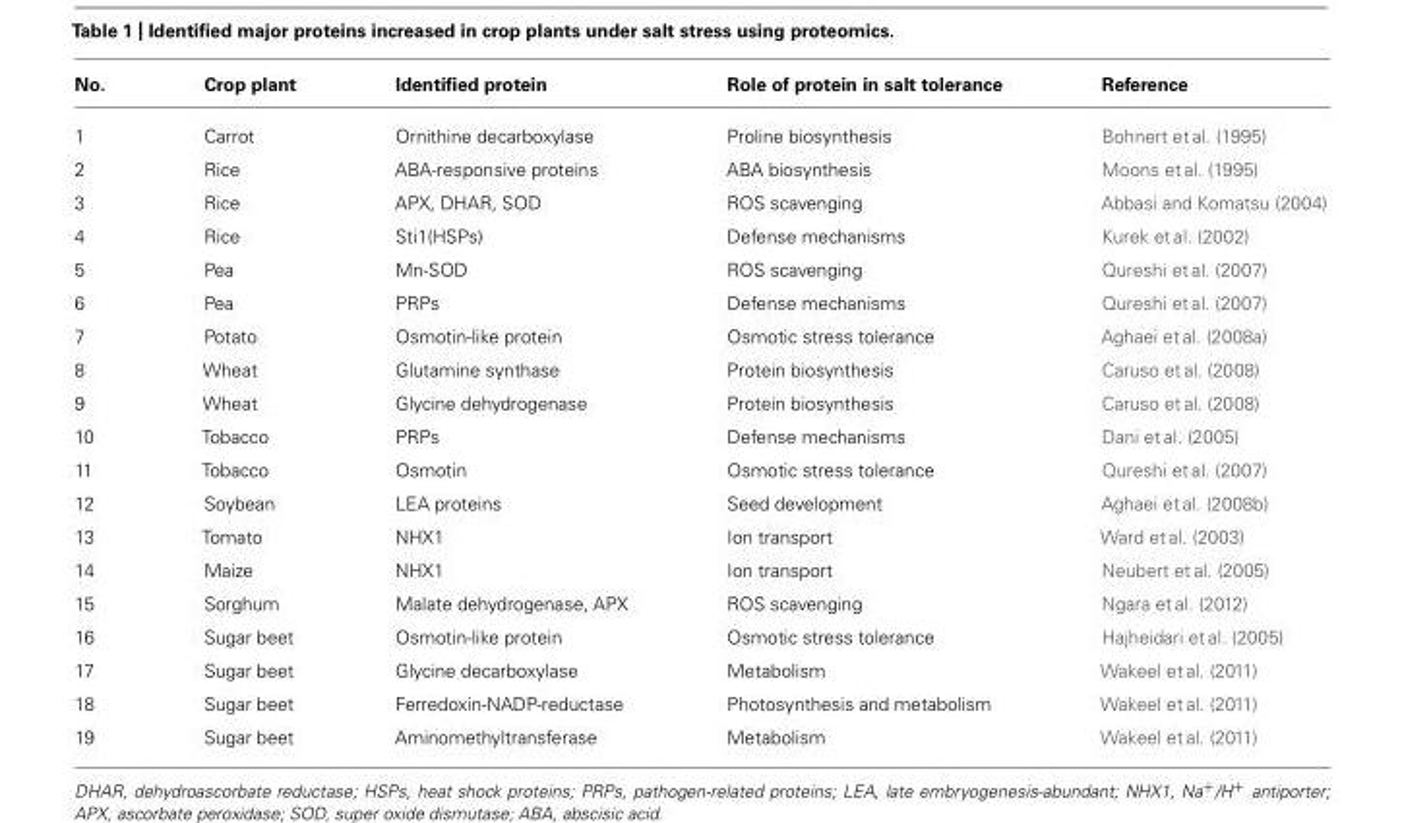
<table><thead><tr><td>No.</td><td>Crop plant</td><td>Identified protein</td><td>Role of protein in salt tolerance</td><td>Reference</td></tr></thead><tbody><tr><td>1</td><td>Carrot</td><td>Ornithine decarboxylase</td><td>Proline biosynthesis</td><td>Bohnert et al. (1995)</td></tr><tr><td>2</td><td>Rice</td><td>ABA-responsive proteins</td><td>ABA biosynthesis</td><td>Moons et al. (1995)</td></tr><tr><td>3</td><td>Rice</td><td>APX, DHAR, SOD</td><td>ROS scavenging</td><td>Abbasi and Komatsu (2004)</td></tr><tr><td>4</td><td>Rice</td><td>Sti1(HSPs)</td><td>Defense mechanisms</td><td>Kurek et al. (2002)</td></tr><tr><td>5</td><td>Pea</td><td>Mn-SOD</td><td>ROS scavenging</td><td>Qureshi et al. (2007)</td></tr><tr><td>6</td><td>Pea</td><td>PRPs</td><td>Defense mechanisms</td><td>Qureshi et al. (2007)</td></tr><tr><td>7</td><td>Potato</td><td>Osmotin-like protein</td><td>Osmotic stress tolerance</td><td>Aghaei et al. (2008a)</td></tr><tr><td>8</td><td>Wheat</td><td>Glutamine synthase</td><td>Protein biosynthesis</td><td>Caruso et al. (2008)</td></tr><tr><td>9</td><td>Wheat</td><td>Glycine dehydrogenase</td><td>Protein biosynthesis</td><td>Caruso et al. (2008)</td></tr><tr><td>10</td><td>Tobacco</td><td>PRPs</td><td>Defense mechanisms</td><td>Dani et al. (2005)</td></tr><tr><td>11</td><td>Tobacco</td><td>Osmotin</td><td>Osmotic stress tolerance</td><td>Qureshi et al. (2007)</td></tr><tr><td>12</td><td>Soybean</td><td>LEA proteins</td><td>Seed development</td><td>Aghaei et al. (2008b)</td></tr><tr><td>13</td><td>Tomato</td><td>NHX1</td><td>Ion transport</td><td>Ward et al. (2003)</td></tr><tr><td>14</td><td>Maize</td><td>NHX1</td><td>Ion transport</td><td>Neubert et al. (2005)</td></tr><tr><td>15</td><td>Sorghum</td><td>Malate dehydrogenase, APX</td><td>ROS scavenging</td><td>Ngara et al. (2012)</td></tr><tr><td>16</td><td>Sugar beet</td><td>Osmotin-like protein</td><td>Osmotic stress tolerance</td><td>Hajheidari et al. (2005)</td></tr><tr><td>17</td><td>Sugar beet</td><td>Glycine decarboxylase</td><td>Metabolism</td><td>Wakeel et al. (2011)</td></tr><tr><td>18</td><td>Sugar beet</td><td>Ferredoxin-NADP-reductase</td><td>Photosynthesis and metabolism</td><td>Wakeel et al. (2011)</td></tr><tr><td>19</td><td>Sugar beet</td><td>Aminomethyltransferase</td><td>Metabolism</td><td>Wakeel et al. (2011)</td></tr></tbody></table>